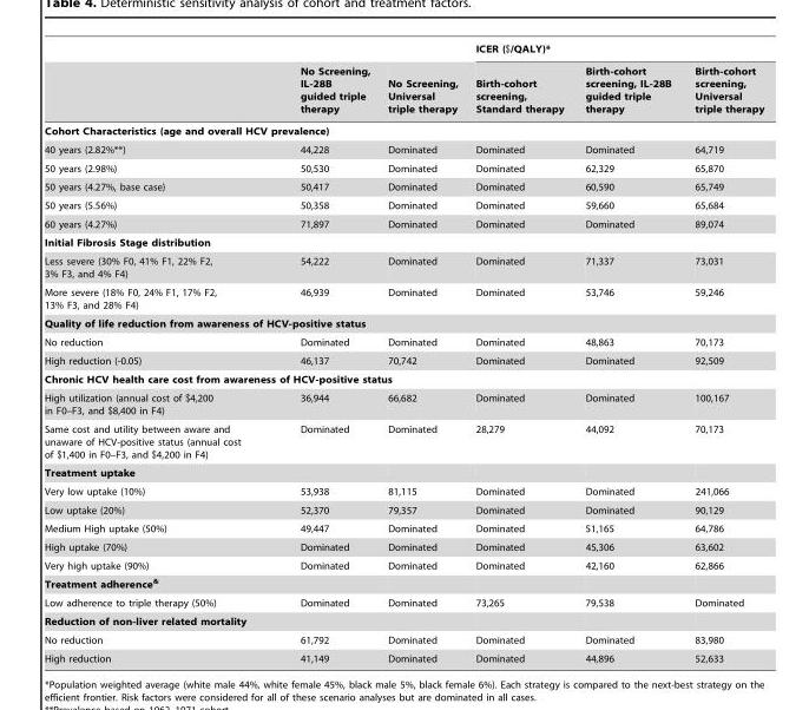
<table><thead><tr><td rowspan="2"></td><td rowspan="2">No Screening, IL-28B guided triple therapy</td><td rowspan="2">No Screening, Universal triple therapy</td><td colspan="3">ICER ($/QALY)*</td></tr><tr><td>Birth-cohort screening, Standard therapy</td><td>Birth-cohort screening, IL-28B guided triple therapy</td><td>Birth-cohort screening, Universal triple therapy</td></tr></thead><tbody><tr><td colspan="6">Cohort Characteristics (age and overall HCV prevalence)</td></tr><tr><td>40 years (2.82%**)</td><td>44,228</td><td>Dominated</td><td>Dominated</td><td>Dominated</td><td>64,719</td></tr><tr><td>50 years (2.98%)</td><td>50,530</td><td>Dominated</td><td>Dominated</td><td>62,329</td><td>65,870</td></tr><tr><td>50 years (4.27%, base case)</td><td>50,417</td><td>Dominated</td><td>Dominated</td><td>60,590</td><td>65,749</td></tr><tr><td>50 years (5.56%)</td><td>50,358</td><td>Dominated</td><td>Dominated</td><td>59,660</td><td>65,684</td></tr><tr><td>60 years (4.27%)</td><td>71,897</td><td>Dominated</td><td>Dominated</td><td>Dominated</td><td>89,074</td></tr><tr><td colspan="6">Initial Fibrosis Stage distribution</td></tr><tr><td>Less severe (30% F0, 41% F1, 22% F2, 3% F3, and 4% F4)</td><td>54,222</td><td>Dominated</td><td>Dominated</td><td>71,337</td><td>73,031</td></tr><tr><td>More severe (18% F0, 24% F1, 17% F2, 13% F3, and 28% F4)</td><td>46,939</td><td>Dominated</td><td>Dominated</td><td>53,746</td><td>59,246</td></tr><tr><td colspan="6">Quality of life reduction from awareness of HCV-positive status</td></tr><tr><td>No reduction</td><td>Dominated</td><td>Dominated</td><td>Dominated</td><td>48,863</td><td>70,173</td></tr><tr><td>High reduction (-0.05)</td><td>46,137</td><td>70,742</td><td>Dominated</td><td>Dominated</td><td>92,509</td></tr><tr><td colspan="6">Chronic HCV health care cost from awareness of HCV-positive status</td></tr><tr><td>High utilization (annual cost of $4,200 in F0–F3, and $8,400 in F4)</td><td>36,944</td><td>66,682</td><td>Dominated</td><td>Dominated</td><td>100,167</td></tr><tr><td>Same cost and utility between aware and unaware of HCV-positive status (annual cost of $1,400 in F0–F3, and $4,200 in F4)</td><td>Dominated</td><td>Dominated</td><td>28,279</td><td>44,092</td><td>70,173</td></tr><tr><td colspan="6">Treatment uptake</td></tr><tr><td>Very low uptake (10%)</td><td>53,938</td><td>81,115</td><td>Dominated</td><td>Dominated</td><td>241,066</td></tr><tr><td>Low uptake (20%)</td><td>52,370</td><td>79,357</td><td>Dominated</td><td>Dominated</td><td>90,129</td></tr><tr><td>Medium High uptake (50%)</td><td>49,447</td><td>Dominated</td><td>Dominated</td><td>51,165</td><td>64,786</td></tr><tr><td>High uptake (70%)</td><td>Dominated</td><td>Dominated</td><td>Dominated</td><td>45,306</td><td>63,602</td></tr><tr><td>Very high uptake (90%)</td><td>Dominated</td><td>Dominated</td><td>Dominated</td><td>42,160</td><td>62,866</td></tr><tr><td colspan="6">Treatment adherence&amp;</td></tr><tr><td>Low adherence to triple therapy (50%)</td><td>Dominated</td><td>Dominated</td><td>73,265</td><td>79,538</td><td>Dominated</td></tr><tr><td colspan="6">Reduction of non-liver related mortality</td></tr><tr><td>No reduction</td><td>61,792</td><td>Dominated</td><td>Dominated</td><td>Dominated</td><td>83,980</td></tr><tr><td>High reduction</td><td>41,149</td><td>Dominated</td><td>Dominated</td><td>44,896</td><td>52,633</td></tr></tbody></table>